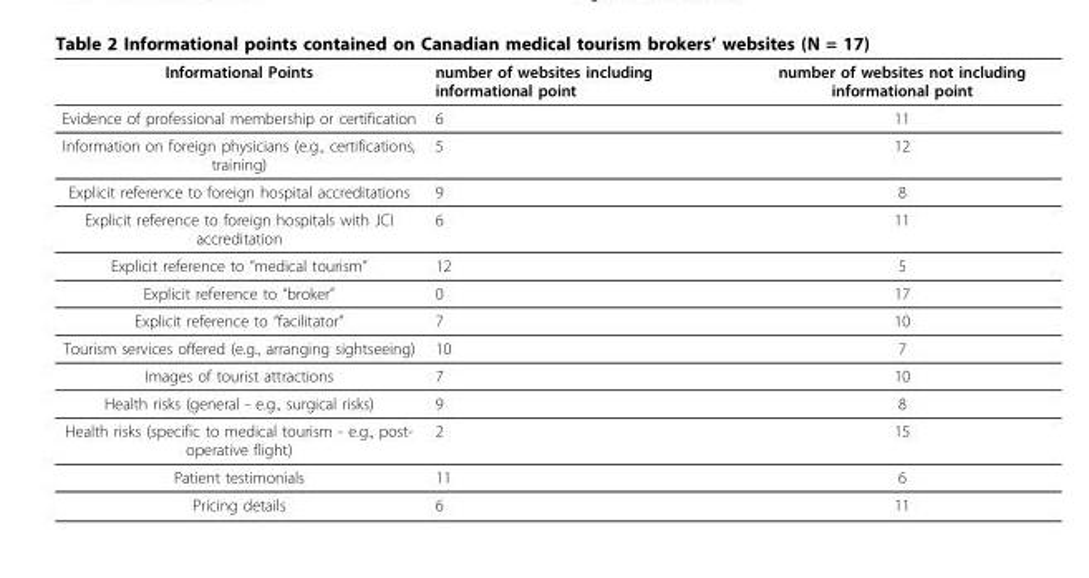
<table><thead><tr><td>Informational Points</td><td>number of websites including informational point</td><td>number of websites not including informational point</td></tr></thead><tbody><tr><td>Evidence of professional membership or certification</td><td>6</td><td>11</td></tr><tr><td>Information on foreign physicians (e.g., certifications, training)</td><td>5</td><td>12</td></tr><tr><td>Explicit reference to foreign hospital accreditations</td><td>9</td><td>8</td></tr><tr><td>Explicit reference to foreign hospitals with JCI accreditation</td><td>6</td><td>11</td></tr><tr><td>Explicit reference to “medical tourism”</td><td>12</td><td>5</td></tr><tr><td>Explicit reference to “broker”</td><td>0</td><td>17</td></tr><tr><td>Explicit reference to “facilitator”</td><td>7</td><td>10</td></tr><tr><td>Tourism services offered (e.g., arranging sightseeing)</td><td>10</td><td>7</td></tr><tr><td>Images of tourist attractions</td><td>7</td><td>10</td></tr><tr><td>Health risks (general - e.g., surgical risks)</td><td>9</td><td>8</td></tr><tr><td>Health risks (specific to medical tourism - e.g., post- operative flight)</td><td>2</td><td>15</td></tr><tr><td>Patient testimonials</td><td>11</td><td>6</td></tr><tr><td>Pricing details</td><td>6</td><td>11</td></tr></tbody></table>